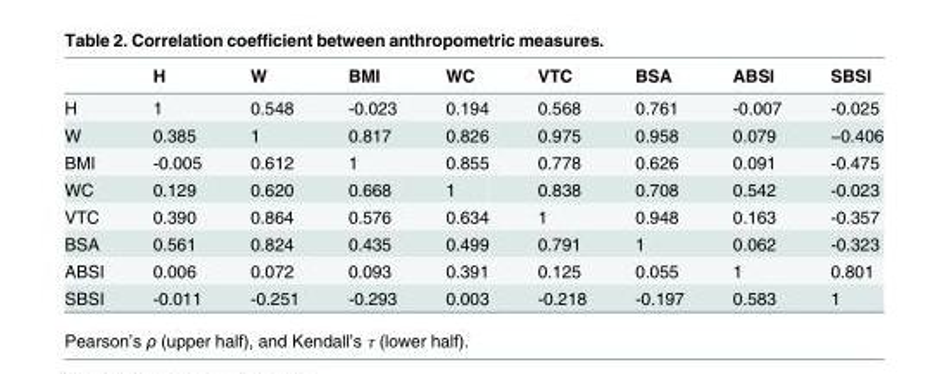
<table><thead><tr><td></td><td>H</td><td>W</td><td>BMI</td><td>WC</td><td>VTC</td><td>BSA</td><td>ABSI</td><td>SBSI</td></tr></thead><tbody><tr><td>H</td><td>1</td><td>0.548</td><td>-0.023</td><td>0.194</td><td>0.568</td><td>0.761</td><td>-0.007</td><td>-0.025</td></tr><tr><td>W</td><td>0.385</td><td>1</td><td>0.817</td><td>0.826</td><td>0.975</td><td>0.958</td><td>0.079</td><td>−0.406</td></tr><tr><td>BMI</td><td>-0.005</td><td>0.612</td><td>1</td><td>0.855</td><td>0.778</td><td>0.626</td><td>0.091</td><td>-0.475</td></tr><tr><td>WC</td><td>0.129</td><td>0.620</td><td>0.668</td><td>1</td><td>0.838</td><td>0.708</td><td>0.542</td><td>-0.023</td></tr><tr><td>VTC</td><td>0.390</td><td>0.864</td><td>0.576</td><td>0.634</td><td>1</td><td>0.948</td><td>0.163</td><td>-0.357</td></tr><tr><td>BSA</td><td>0.561</td><td>0.824</td><td>0.435</td><td>0.499</td><td>0.791</td><td>1</td><td>0.062</td><td>-0.323</td></tr><tr><td>ABSI</td><td>0.006</td><td>0.072</td><td>0.093</td><td>0.391</td><td>0.125</td><td>0.055</td><td>1</td><td>0.801</td></tr><tr><td>SBSI</td><td>-0.011</td><td>-0.251</td><td>-0.293</td><td>0.003</td><td>-0.218</td><td>-0.197</td><td>0.583</td><td>1</td></tr></tbody></table>